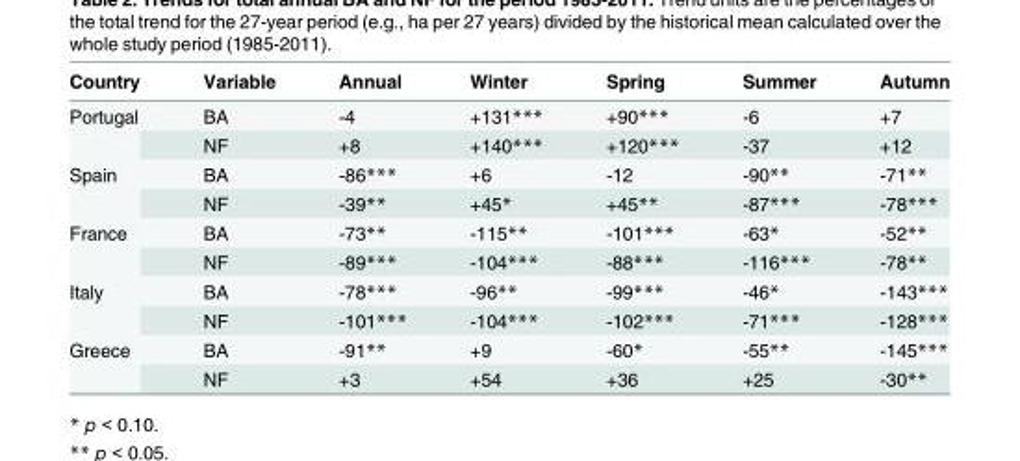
<table><thead><tr><td>Country</td><td>Variable</td><td>Annual</td><td>Winter</td><td>Spring</td><td>Summer</td><td>Autumn</td></tr></thead><tbody><tr><td rowspan="2">Portugal</td><td>BA</td><td>-4</td><td>+131***</td><td>+90***</td><td>-6</td><td>+7</td></tr><tr><td>NF</td><td>+8</td><td>+140***</td><td>+120***</td><td>-37</td><td>+12</td></tr><tr><td rowspan="2">Spain</td><td>BA</td><td>-86***</td><td>+6</td><td>-12</td><td>-90**</td><td>-71**</td></tr><tr><td>NF</td><td>-39**</td><td>+45*</td><td>+45**</td><td>-87***</td><td>-78***</td></tr><tr><td rowspan="2">France</td><td>BA</td><td>-73**</td><td>-115**</td><td>-101***</td><td>-63*</td><td>-52**</td></tr><tr><td>NF</td><td>-89***</td><td>-104***</td><td>-88***</td><td>-116***</td><td>-78**</td></tr><tr><td rowspan="2">Italy</td><td>BA</td><td>-78***</td><td>-96**</td><td>-99***</td><td>-46*</td><td>-143***</td></tr><tr><td>NF</td><td>-101***</td><td>-104***</td><td>-102***</td><td>-71***</td><td>-128***</td></tr><tr><td rowspan="2">Greece</td><td>BA</td><td>-91**</td><td>+9</td><td>-60*</td><td>-55**</td><td>-145***</td></tr><tr><td>NF</td><td>+3</td><td>+54</td><td>+36</td><td>+25</td><td>-30**</td></tr></tbody></table>